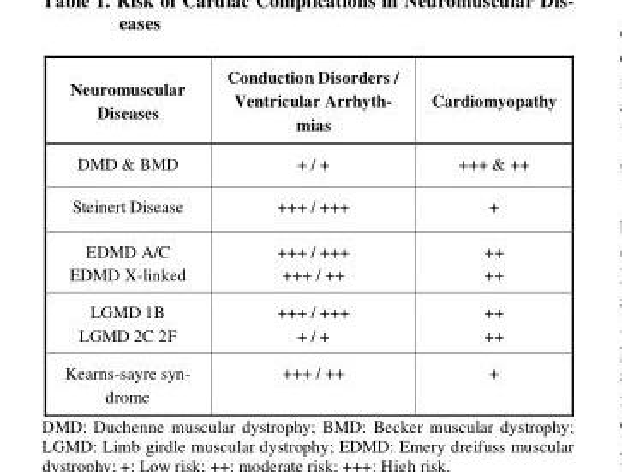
<table><thead><tr><td>Neuromuscular Diseases</td><td>Conduction Disorders / Ventricular Arrhyth- mias</td><td>Cardiomyopathy</td></tr></thead><tbody><tr><td>DMD &amp; BMD</td><td>+ / +</td><td>+++ &amp; ++</td></tr><tr><td>Steinert Disease</td><td>+++ / +++</td><td>+</td></tr><tr><td>EDMD A/C EDMD X-linked</td><td>+++ / +++ +++ / ++</td><td>++ ++</td></tr><tr><td>LGMD 1B LGMD 2C 2F</td><td>+++ / +++ + / +</td><td>++ ++</td></tr><tr><td>Kearns-sayre syn- drome</td><td>+++ / ++</td><td>+</td></tr></tbody></table>